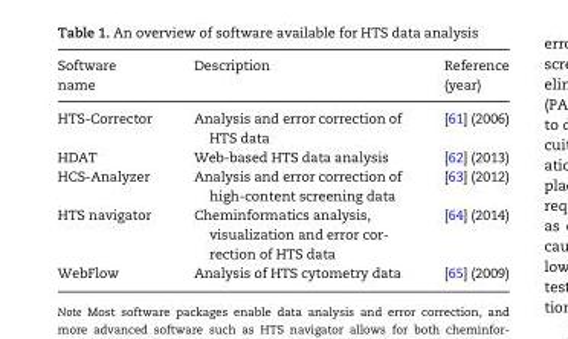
<table><thead><tr><td>Software name</td><td>Description</td><td>Reference (year)</td></tr></thead><tbody><tr><td>HTS-Corrector</td><td>Analysis and error correction of HTS data</td><td>[61] (2006)</td></tr><tr><td>HDAT</td><td>Web-based HTS data analysis</td><td>[62] (2013)</td></tr><tr><td>HCS-Analyzer</td><td>Analysis and error correction of high-content screening data</td><td>[63] (2012)</td></tr><tr><td>HTS navigator</td><td>Cheminformatics analysis, visualization and error cor- rection of HTS data</td><td>[64] (2014)</td></tr><tr><td>WebFlow</td><td>Analysis of HTS cytometry data</td><td>[65] (2009)</td></tr></tbody></table>